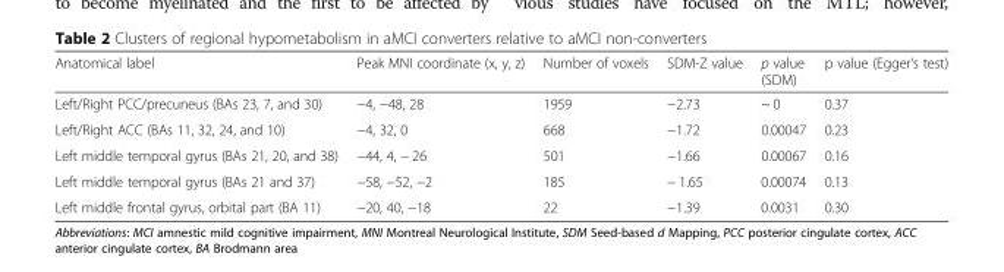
<table><thead><tr><td>Anatomical label</td><td>Peak MNI coordinate (x, y, z)</td><td>Number of voxels</td><td>SDM-Z value</td><td>p value (SDM)</td><td>p value (Egger’s test)</td></tr></thead><tbody><tr><td>Left/Right PCC/precuneus (BAs 23, 7, and 30)</td><td>−4, −48, 28</td><td>1959</td><td>−2.73</td><td>~ 0</td><td>0.37</td></tr><tr><td>Left/Right ACC (BAs 11, 32, 24, and 10)</td><td>−4, 32, 0</td><td>668</td><td>−1.72</td><td>0.00047</td><td>0.23</td></tr><tr><td>Left middle temporal gyrus (BAs 21, 20, and 38)</td><td>−44, 4, − 26</td><td>501</td><td>−1.66</td><td>0.00067</td><td>0.16</td></tr><tr><td>Left middle temporal gyrus (BAs 21 and 37)</td><td>−58, −52, −2</td><td>185</td><td>− 1.65</td><td>0.00074</td><td>0.13</td></tr><tr><td>Left middle frontal gyrus, orbital part (BA 11)</td><td>−20, 40, −18</td><td>22</td><td>−1.39</td><td>0.0031</td><td>0.30</td></tr></tbody></table>